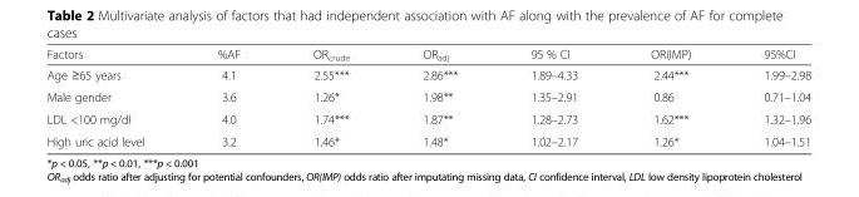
<table><thead><tr><td>Factors</td><td>%AF</td><td>OR<sub>crude</sub></td><td>OR<sub>adj</sub></td><td>95 % CI</td><td>OR(IMP)</td><td>95%CI</td></tr></thead><tbody><tr><td>Age ≥65 years</td><td>4.1</td><td>2.55***</td><td>2.86***</td><td>1.89–4.33</td><td>2.44***</td><td>1.99–2.98</td></tr><tr><td>Male gender</td><td>3.6</td><td>1.26*</td><td>1.98**</td><td>1.35–2.91</td><td>0.86</td><td>0.71–1.04</td></tr><tr><td>LDL &lt;100 mg/dl</td><td>4.0</td><td>1.74***</td><td>1.87**</td><td>1.28–2.73</td><td>1.62***</td><td>1.32–1.96</td></tr><tr><td>High uric acid level</td><td>3.2</td><td>1.46*</td><td>1.48*</td><td>1.02–2.17</td><td>1.26*</td><td>1.04–1.51</td></tr></tbody></table>